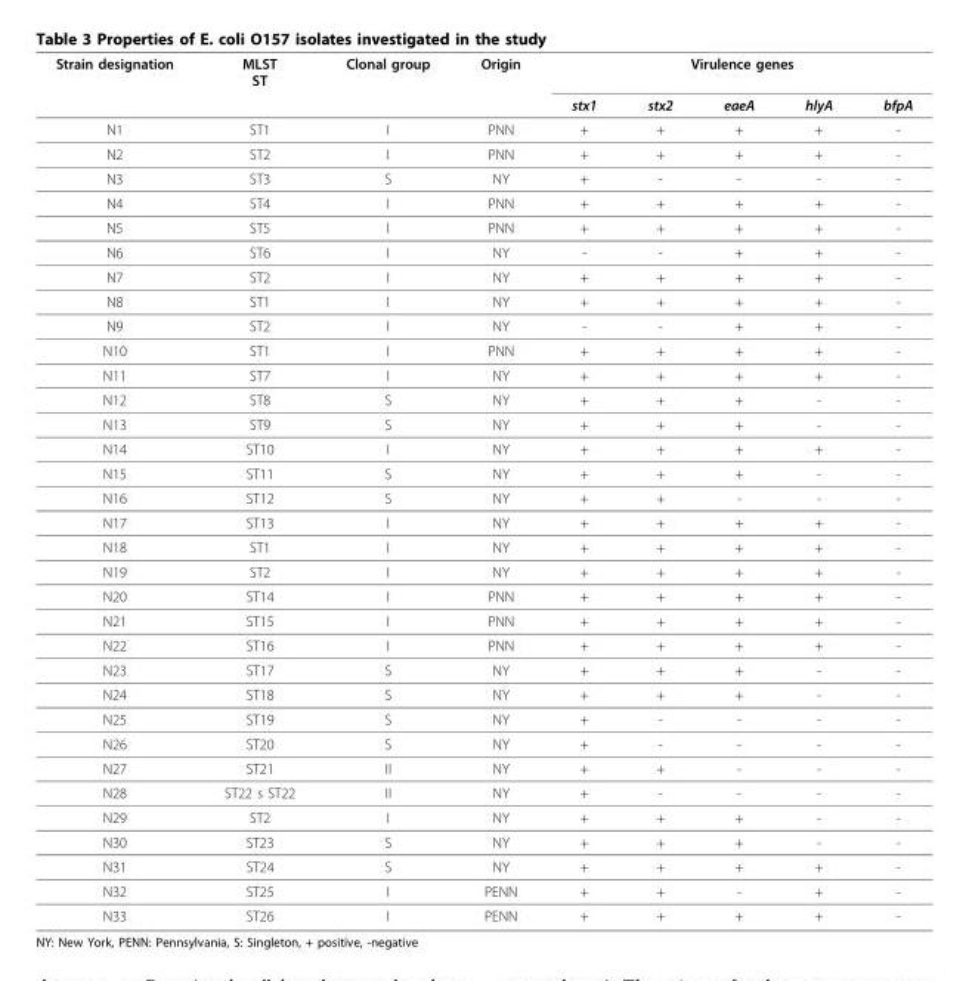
<table><thead><tr><td rowspan="2">Strain designation</td><td rowspan="2">MLST ST</td><td rowspan="2">Clonal group</td><td rowspan="2">Origin</td><td colspan="5">Virulence genes</td></tr><tr><td>stx1</td><td>stx2</td><td>eaeA</td><td>hlyA</td><td>bfpA</td></tr></thead><tbody><tr><td>N1</td><td>ST1</td><td>I</td><td>PNN</td><td>+</td><td>+</td><td>+</td><td>+</td><td>-</td></tr><tr><td>N2</td><td>ST2</td><td>I</td><td>PNN</td><td>+</td><td>+</td><td>+</td><td>+</td><td>-</td></tr><tr><td>N3</td><td>ST3</td><td>S</td><td>NY</td><td>+</td><td>-</td><td>-</td><td>-</td><td>-</td></tr><tr><td>N4</td><td>ST4</td><td>I</td><td>PNN</td><td>+</td><td>+</td><td>+</td><td>+</td><td>-</td></tr><tr><td>N5</td><td>ST5</td><td>I</td><td>PNN</td><td>+</td><td>+</td><td>+</td><td>+</td><td>-</td></tr><tr><td>N6</td><td>ST6</td><td>I</td><td>NY</td><td>-</td><td>-</td><td>+</td><td>+</td><td>-</td></tr><tr><td>N7</td><td>ST2</td><td>I</td><td>NY</td><td>+</td><td>+</td><td>+</td><td>+</td><td>-</td></tr><tr><td>N8</td><td>ST1</td><td>I</td><td>NY</td><td>+</td><td>+</td><td>+</td><td>+</td><td>-</td></tr><tr><td>N9</td><td>ST2</td><td>I</td><td>NY</td><td>-</td><td>-</td><td>+</td><td>+</td><td>-</td></tr><tr><td>N10</td><td>ST1</td><td>I</td><td>PNN</td><td>+</td><td>+</td><td>+</td><td>+</td><td>-</td></tr><tr><td>N11</td><td>ST7</td><td>I</td><td>NY</td><td>+</td><td>+</td><td>+</td><td>+</td><td>-</td></tr><tr><td>N12</td><td>ST8</td><td>S</td><td>NY</td><td>+</td><td>+</td><td>+</td><td>-</td><td>-</td></tr><tr><td>N13</td><td>ST9</td><td>S</td><td>NY</td><td>+</td><td>+</td><td>+</td><td>-</td><td>-</td></tr><tr><td>N14</td><td>ST10</td><td>I</td><td>NY</td><td>+</td><td>+</td><td>+</td><td>+</td><td>-</td></tr><tr><td>N15</td><td>ST11</td><td>S</td><td>NY</td><td>+</td><td>+</td><td>+</td><td>-</td><td>-</td></tr><tr><td>N16</td><td>ST12</td><td>S</td><td>NY</td><td>+</td><td>+</td><td>-</td><td>-</td><td>-</td></tr><tr><td>N17</td><td>ST13</td><td>I</td><td>NY</td><td>+</td><td>+</td><td>+</td><td>+</td><td>-</td></tr><tr><td>N18</td><td>ST1</td><td>I</td><td>NY</td><td>+</td><td>+</td><td>+</td><td>+</td><td>-</td></tr><tr><td>N19</td><td>ST2</td><td>I</td><td>NY</td><td>+</td><td>+</td><td>+</td><td>+</td><td>-</td></tr><tr><td>N20</td><td>ST14</td><td>I</td><td>PNN</td><td>+</td><td>+</td><td>+</td><td>+</td><td>-</td></tr><tr><td>N21</td><td>ST15</td><td>I</td><td>PNN</td><td>+</td><td>+</td><td>+</td><td>+</td><td>-</td></tr><tr><td>N22</td><td>ST16</td><td>I</td><td>PNN</td><td>+</td><td>+</td><td>+</td><td>+</td><td>-</td></tr><tr><td>N23</td><td>ST17</td><td>S</td><td>NY</td><td>+</td><td>+</td><td>+</td><td>-</td><td>-</td></tr><tr><td>N24</td><td>ST18</td><td>S</td><td>NY</td><td>+</td><td>+</td><td>+</td><td>-</td><td>-</td></tr><tr><td>N25</td><td>ST19</td><td>S</td><td>NY</td><td>+</td><td>-</td><td>-</td><td>-</td><td>-</td></tr><tr><td>N26</td><td>ST20</td><td>S</td><td>NY</td><td>+</td><td>-</td><td>-</td><td>-</td><td>-</td></tr><tr><td>N27</td><td>ST21</td><td>II</td><td>NY</td><td>+</td><td>+</td><td>-</td><td>-</td><td>-</td></tr><tr><td>N28</td><td>ST22 s ST22</td><td>II</td><td>NY</td><td>+</td><td>-</td><td>-</td><td>-</td><td>-</td></tr><tr><td>N29</td><td>ST2</td><td>I</td><td>NY</td><td>+</td><td>+</td><td>+</td><td>-</td><td>-</td></tr><tr><td>N30</td><td>ST23</td><td>S</td><td>NY</td><td>+</td><td>+</td><td>+</td><td>-</td><td>-</td></tr><tr><td>N31</td><td>ST24</td><td>S</td><td>NY</td><td>+</td><td>+</td><td>+</td><td>+</td><td>-</td></tr><tr><td>N32</td><td>ST25</td><td>I</td><td>PENN</td><td>+</td><td>+</td><td>-</td><td>+</td><td>-</td></tr><tr><td>N33</td><td>ST26</td><td>I</td><td>PENN</td><td>+</td><td>+</td><td>+</td><td>+</td><td>-</td></tr></tbody></table>